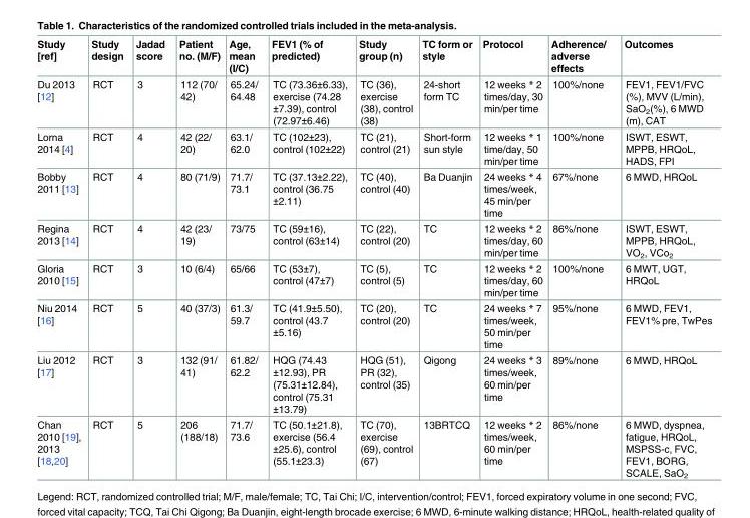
<table><thead><tr><td>Study [ref]</td><td>Study design</td><td>Jadad score</td><td>Patient no. (M/F)</td><td>Age, mean (I/C)</td><td>FEV1 (% of predicted)</td><td>Study group (n)</td><td>TC form or style</td><td>Protocol</td><td>Adherence/ adverse effects</td><td>Outcomes</td></tr></thead><tbody><tr><td>Du 2013 [12]</td><td>RCT</td><td>3</td><td>112 (70/ 42)</td><td>65.24/ 64.48</td><td>TC (73.36±6.33), exercise (74.28 ±7.39), control (72.97±6.46)</td><td>TC (36), exercise (38), control (38)</td><td>24-short form TC</td><td>12 weeks * 2 times/day, 30 min/per time</td><td>100%/none</td><td>FEV1, FEV1/FVC (%), MVV (L/min), SaO<sub>2</sub>(%), 6 MWD (m), CAT</td></tr><tr><td>Lorna 2014 [4]</td><td>RCT</td><td>4</td><td>42 (22/ 20)</td><td>63.1/ 62.0</td><td>TC (102±23), control (102±22)</td><td>TC (21), control (21)</td><td>Short-form sun style</td><td>12 weeks * 1 time/day, 50 min/per time</td><td>100%/none</td><td>ISWT, ESWT, MPPB, HRQoL, HADS, FPI</td></tr><tr><td>Bobby 2011 [13]</td><td>RCT</td><td>4</td><td>80 (71/9)</td><td>71.7/ 73.1</td><td>TC (37.13±2.22), control (36.75 ±2.11)</td><td>TC (40), control (40)</td><td>Ba Duanjin</td><td>24 weeks * 4 times/week, 45 min/per time</td><td>67%/none</td><td>6 MWD, HRQoL</td></tr><tr><td>Regina 2013 [14]</td><td>RCT</td><td>4</td><td>42 (23/ 19)</td><td>73/75</td><td>TC (59±16), control (63±14)</td><td>TC (22), control (20)</td><td>TC</td><td>12 weeks * 2 times/day, 60 min/per time</td><td>86%/none</td><td>ISWT, ESWT, MPPB, HRQoL, VO<sub>2</sub>, VCo<sub>2</sub></td></tr><tr><td>Gloria 2010 [15]</td><td>RCT</td><td>3</td><td>10 (6/4)</td><td>65/66</td><td>TC (53±7), control (47±7)</td><td>TC (5), control (5)</td><td>TC</td><td>12 weeks * 2 times/day, 60 min/per time</td><td>100%/none</td><td>6 MWT, UGT, HRQoL</td></tr><tr><td>Niu 2014 [16]</td><td>RCT</td><td>5</td><td>40 (37/3)</td><td>61.3/ 59.7</td><td>TC (41.9±5.50), control (43.7 ±5.16)</td><td>TC (20), control (20)</td><td>TC</td><td>24 weeks * 7 times/week, 50 min/per time</td><td>95%/none</td><td>6 MWD, FEV1, FEV1% pre, TwPes</td></tr><tr><td>Liu 2012 [17]</td><td>RCT</td><td>3</td><td>132 (91/ 41)</td><td>61.82/ 62.2</td><td>HQG (74.43 ±12.93), PR (75.31±12.84), control (75.31 ±13.79)</td><td>HQG (51), PR (32), control (35)</td><td>Qigong</td><td>24 weeks * 3 times/week, 60 min/per time</td><td>89%/none</td><td>6 MWD, HRQoL</td></tr><tr><td>Chan 2010 [19], 2013 [18,20]</td><td>RCT</td><td>5</td><td>206 (188/18)</td><td>71.7/ 73.6</td><td>TC (50.1±21.8), exercise (56.4 ±25.6), control (55.1±23.3)</td><td>TC (70), exercise (69), control (67)</td><td>13BRTCQ</td><td>12 weeks * 2 times/week, 60 min/per time</td><td>86%/none</td><td>6 MWD, dyspnea, fatigue, HRQoL, MSPSS-c, FVC, FEV1, BORG, SCALE, SaO<sub>2</sub></td></tr></tbody></table>